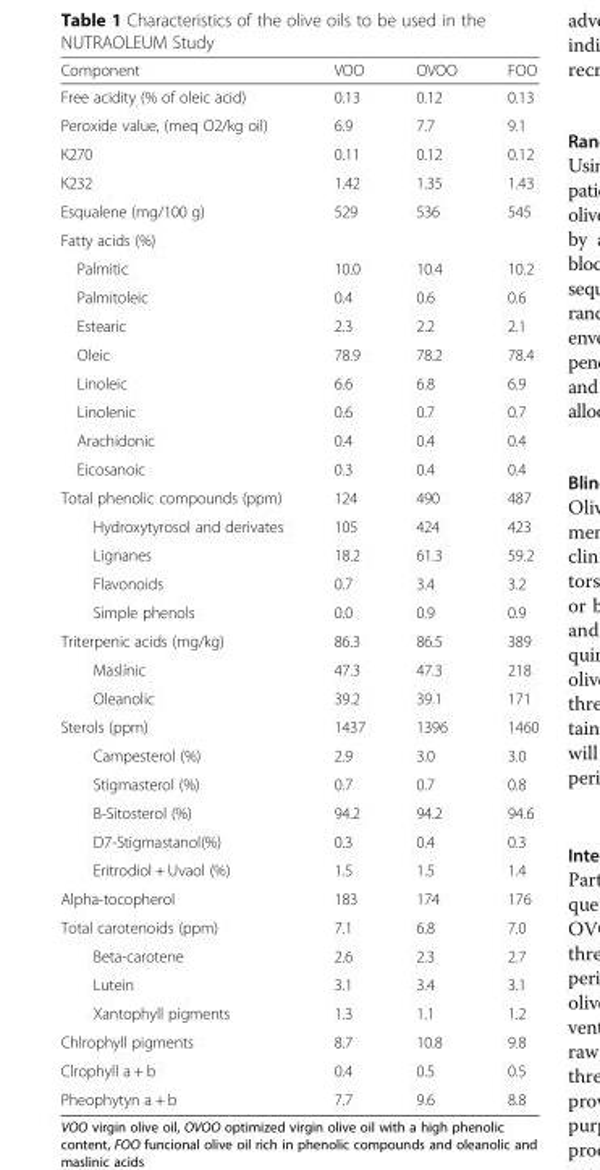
<table><thead><tr><td>Component</td><td>VOO</td><td>OVOO</td><td>FOO</td></tr></thead><tbody><tr><td>Free acidity (% of oleic acid)</td><td>0.13</td><td>0.12</td><td>0.13</td></tr><tr><td>Peroxide value, (meq O2/kg oil)</td><td>6.9</td><td>7.7</td><td>9.1</td></tr><tr><td>K270</td><td>0.11</td><td>0.12</td><td>0.12</td></tr><tr><td>K232</td><td>1.42</td><td>1.35</td><td>1.43</td></tr><tr><td>Esqualene (mg/100 g)</td><td>529</td><td>536</td><td>545</td></tr><tr><td colspan="4">Fatty acids (%)</td></tr><tr><td>Palmitic</td><td>10.0</td><td>10.4</td><td>10.2</td></tr><tr><td>Palmitoleic</td><td>0.4</td><td>0.6</td><td>0.6</td></tr><tr><td>Estearic</td><td>2.3</td><td>2.2</td><td>2.1</td></tr><tr><td>Oleic</td><td>78.9</td><td>78.2</td><td>78.4</td></tr><tr><td>Linoleic</td><td>6.6</td><td>6.8</td><td>6.9</td></tr><tr><td>Linolenic</td><td>0.6</td><td>0.7</td><td>0.7</td></tr><tr><td>Arachidonic</td><td>0.4</td><td>0.4</td><td>0.4</td></tr><tr><td>Eicosanoic</td><td>0.3</td><td>0.4</td><td>0.4</td></tr><tr><td>Total phenolic compounds (ppm)</td><td>124</td><td>490</td><td>487</td></tr><tr><td>Hydroxytyrosol and derivates</td><td>105</td><td>424</td><td>423</td></tr><tr><td>Lignanes</td><td>18.2</td><td>61.3</td><td>59.2</td></tr><tr><td>Flavonoids</td><td>0.7</td><td>3.4</td><td>3.2</td></tr><tr><td>Simple phenols</td><td>0.0</td><td>0.9</td><td>0.9</td></tr><tr><td>Triterpenic acids (mg/kg)</td><td>86.3</td><td>86.5</td><td>389</td></tr><tr><td>Maslínic</td><td>47.3</td><td>47.3</td><td>218</td></tr><tr><td>Oleanolic</td><td>39.2</td><td>39.1</td><td>171</td></tr><tr><td>Sterols (ppm)</td><td>1437</td><td>1396</td><td>1460</td></tr><tr><td>Campesterol (%)</td><td>2.9</td><td>3.0</td><td>3.0</td></tr><tr><td>Stigmasterol (%)</td><td>0.7</td><td>0.7</td><td>0.8</td></tr><tr><td>B-Sitosterol (%)</td><td>94.2</td><td>94.2</td><td>94.6</td></tr><tr><td>D7-Stigmastanol(%)</td><td>0.3</td><td>0.4</td><td>0.3</td></tr><tr><td>Eritrodiol + Uvaol (%)</td><td>1.5</td><td>1.5</td><td>1.4</td></tr><tr><td>Alpha-tocopherol</td><td>183</td><td>174</td><td>176</td></tr><tr><td>Total carotenoids (ppm)</td><td>7.1</td><td>6.8</td><td>7.0</td></tr><tr><td>Beta-carotene</td><td>2.6</td><td>2.3</td><td>2.7</td></tr><tr><td>Lutein</td><td>3.1</td><td>3.4</td><td>3.1</td></tr><tr><td>Xantophyll pigments</td><td>1.3</td><td>1.1</td><td>1.2</td></tr><tr><td>Chlrophyll pigments</td><td>8.7</td><td>10.8</td><td>9.8</td></tr><tr><td>Clrophyll a + b</td><td>0.4</td><td>0.5</td><td>0.5</td></tr><tr><td>Pheophytyn a + b</td><td>7.7</td><td>9.6</td><td>8.8</td></tr></tbody></table>